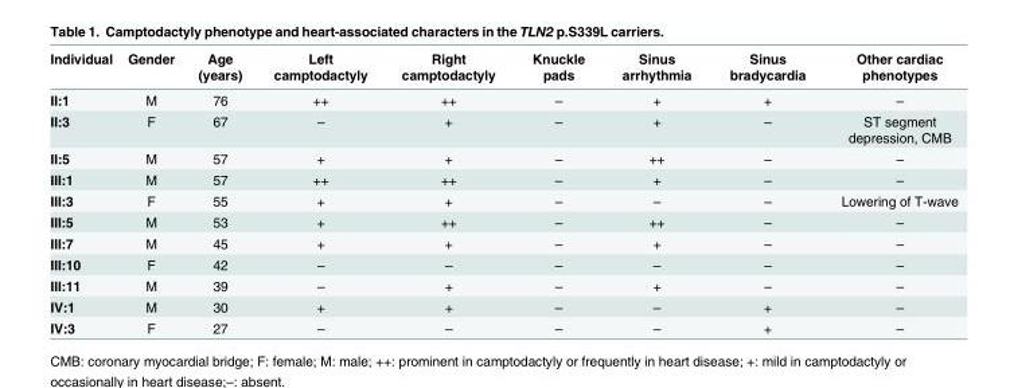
<table><thead><tr><td>Individual</td><td>Gender</td><td>Age (years)</td><td>Left camptodactyly</td><td>Right camptodactyly</td><td>Knuckle pads</td><td>Sinus arrhythmia</td><td>Sinus bradycardia</td><td>Other cardiac phenotypes</td></tr></thead><tbody><tr><td>II:1</td><td>M</td><td>76</td><td>++</td><td>++</td><td>–</td><td>+</td><td>+</td><td>–</td></tr><tr><td>II:3</td><td>F</td><td>67</td><td>–</td><td>+</td><td>–</td><td>+</td><td>–</td><td>ST segment depression, CMB</td></tr><tr><td>II:5</td><td>M</td><td>57</td><td>+</td><td>+</td><td>–</td><td>++</td><td>–</td><td>–</td></tr><tr><td>III:1</td><td>M</td><td>57</td><td>++</td><td>++</td><td>–</td><td>+</td><td>–</td><td>–</td></tr><tr><td>III:3</td><td>F</td><td>55</td><td>+</td><td>+</td><td>–</td><td>–</td><td>–</td><td>Lowering of T-wave</td></tr><tr><td>III:5</td><td>M</td><td>53</td><td>+</td><td>++</td><td>–</td><td>++</td><td>–</td><td>–</td></tr><tr><td>III:7</td><td>M</td><td>45</td><td>+</td><td>+</td><td>–</td><td>+</td><td>–</td><td>–</td></tr><tr><td>III:10</td><td>F</td><td>42</td><td>–</td><td>–</td><td>–</td><td>–</td><td>–</td><td>–</td></tr><tr><td>III:11</td><td>M</td><td>39</td><td>–</td><td>+</td><td>–</td><td>+</td><td>–</td><td>–</td></tr><tr><td>IV:1</td><td>M</td><td>30</td><td>+</td><td>+</td><td>–</td><td>–</td><td>+</td><td>–</td></tr><tr><td>IV:3</td><td>F</td><td>27</td><td>–</td><td>–</td><td>–</td><td>–</td><td>+</td><td>–</td></tr></tbody></table>